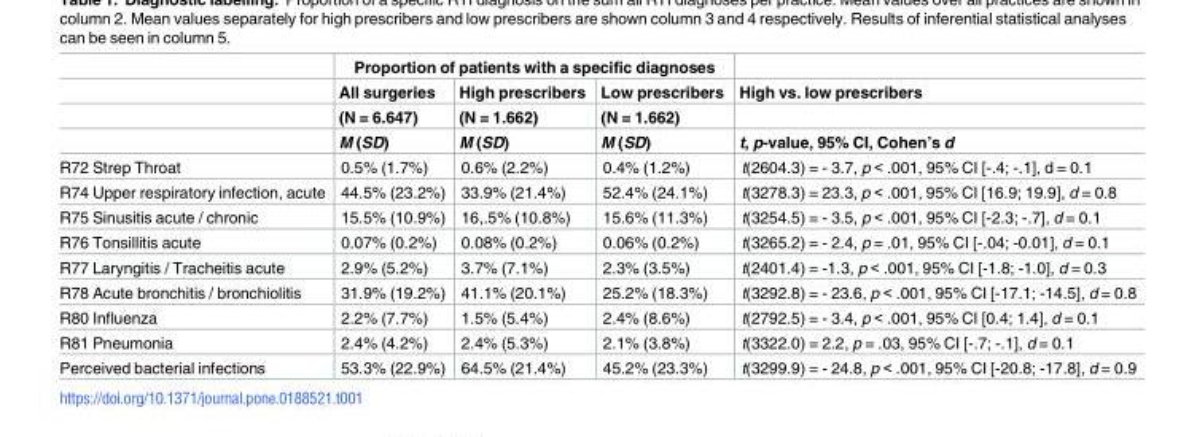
<table><thead><tr><td rowspan="4"></td><td colspan="3">Proportion of patients with a specific diagnoses</td><td rowspan="4">High vs. low prescribers t, p-value, 95% CI, Cohen’s d</td></tr><tr><td rowspan="3">All surgeries (N = 6.647) M (SD)</td><td rowspan="3">High prescribers (N = 1.662) M (SD)</td><td rowspan="3">Low prescribers (N = 1.662) M (SD)</td></tr><tr></tr><tr></tr></thead><tbody><tr><td>R72 Strep Throat</td><td>0.5% (1.7%)</td><td>0.6% (2.2%)</td><td>0.4% (1.2%)</td><td>t(2604.3) = - 3.7, p &lt; .001, 95% CI [-.4; -.1], d = 0.1</td></tr><tr><td>R74 Upper respiratory infection, acute</td><td>44.5% (23.2%)</td><td>33.9% (21.4%)</td><td>52.4% (24.1%)</td><td>t(3278.3) = 23.3, p &lt; .001, 95% CI [16.9; 19.9], d = 0.8</td></tr><tr><td>R75 Sinusitis acute / chronic</td><td>15.5% (10.9%)</td><td>16,.5% (10.8%)</td><td>15.6% (11.3%)</td><td>t(3254.5) = - 3.5, p &lt; .001, 95% CI [-2.3; -.7], d = 0.1</td></tr><tr><td>R76 Tonsillitis acute</td><td>0.07% (0.2%)</td><td>0.08% (0.2%)</td><td>0.06% (0.2%)</td><td>t(3265.2) = - 2.4, p = .01, 95% CI [-.04; -0.01], d = 0.1</td></tr><tr><td>R77 Laryngitis / Tracheitis acute</td><td>2.9% (5.2%)</td><td>3.7% (7.1%)</td><td>2.3% (3.5%)</td><td>t(2401.4) = -1.3, p &lt; .001, 95% CI [-1.8; -1.0], d = 0.3</td></tr><tr><td>R78 Acute bronchitis / bronchiolitis</td><td>31.9% (19.2%)</td><td>41.1% (20.1%)</td><td>25.2% (18.3%)</td><td>t(3292.8) = - 23.6, p &lt; .001, 95% CI [-17.1; -14.5], d = 0.8</td></tr><tr><td>R80 Influenza</td><td>2.2% (7.7%)</td><td>1.5% (5.4%)</td><td>2.4% (8.6%)</td><td>t(2792.5) = - 3.4, p &lt; .001, 95% CI [0.4; 1.4], d = 0.1</td></tr><tr><td>R81 Pneumonia</td><td>2.4% (4.2%)</td><td>2.4% (5.3%)</td><td>2.1% (3.8%)</td><td>t(3322.0) = 2.2, p = .03, 95% CI [-.7; -.1], d = 0.1</td></tr><tr><td>Perceived bacterial infections</td><td>53.3% (22.9%)</td><td>64.5% (21.4%)</td><td>45.2% (23.3%)</td><td>t(3299.9) = - 24.8, p &lt; .001, 95% CI [-20.8; -17.8], d = 0.9</td></tr></tbody></table>